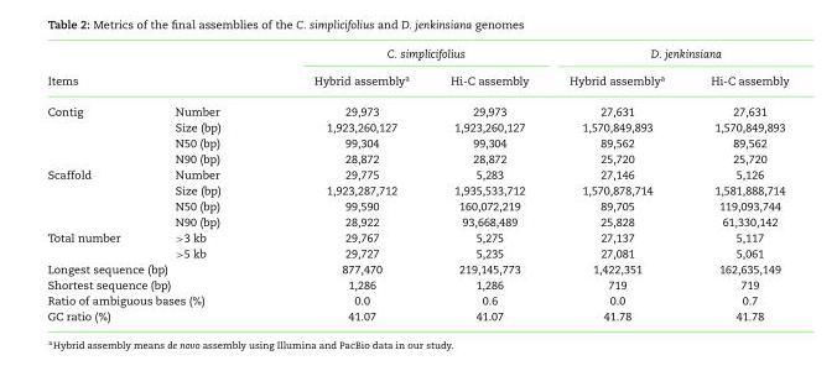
<table><thead><tr><td></td><td></td><td colspan="2">C. simplicifolius</td><td colspan="2">D. jenkinsiana</td></tr><tr><td colspan="2">Items</td><td>Hybrid assembly<sup>a</sup></td><td>Hi-C assembly</td><td>Hybrid assembly<sup>a</sup></td><td>Hi-C assembly</td></tr></thead><tbody><tr><td rowspan="4">Contig</td><td>Number</td><td>29,973</td><td>29,973</td><td>27,631</td><td>27,631</td></tr><tr><td>Size (bp)</td><td>1,923,260,127</td><td>1,923,260,127</td><td>1,570,849,893</td><td>1,570,849,893</td></tr><tr><td>N50 (bp)</td><td>99,304</td><td>99,304</td><td>89,562</td><td>89,562</td></tr><tr><td>N90 (bp)</td><td>28,872</td><td>28,872</td><td>25,720</td><td>25,720</td></tr><tr><td rowspan="4">Scaffold</td><td>Number</td><td>29,775</td><td>5,283</td><td>27,146</td><td>5,126</td></tr><tr><td>Size (bp)</td><td>1,923,287,712</td><td>1,935,533,712</td><td>1,570,878,714</td><td>1,581,888,714</td></tr><tr><td>N50 (bp)</td><td>99,590</td><td>160,072,219</td><td>89,705</td><td>119,093,744</td></tr><tr><td>N90 (bp)</td><td>28,922</td><td>93,668,489</td><td>25,828</td><td>61,330,142</td></tr><tr><td rowspan="2">Total number</td><td>&gt;3 kb</td><td>29,767</td><td>5,275</td><td>27,137</td><td>5,117</td></tr><tr><td>&gt;5 kb</td><td>29,727</td><td>5,235</td><td>27,081</td><td>5,061</td></tr><tr><td colspan="2">Longest sequence (bp)</td><td>877,470</td><td>219,145,773</td><td>1,422,351</td><td>162,635,149</td></tr><tr><td colspan="2">Shortest sequence (bp)</td><td>1,286</td><td>1,286</td><td>719</td><td>719</td></tr><tr><td colspan="2">Ratio of ambiguous bases (%)</td><td>0.0</td><td>0.6</td><td>0.0</td><td>0.7</td></tr><tr><td colspan="2">GC ratio (%)</td><td>41.07</td><td>41.07</td><td>41.78</td><td>41.78</td></tr></tbody></table>